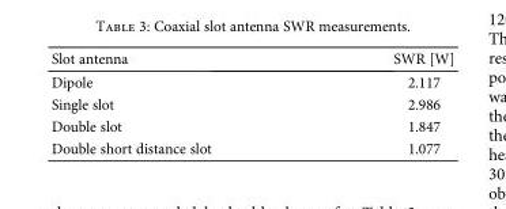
<table><thead><tr><td>Slot antenna</td><td>SWR [W]</td></tr></thead><tbody><tr><td>Dipole</td><td>2.117</td></tr><tr><td>Single slot</td><td>2.986</td></tr><tr><td>Double slot</td><td>1.847</td></tr><tr><td>Double short distance slot</td><td>1.077</td></tr></tbody></table>